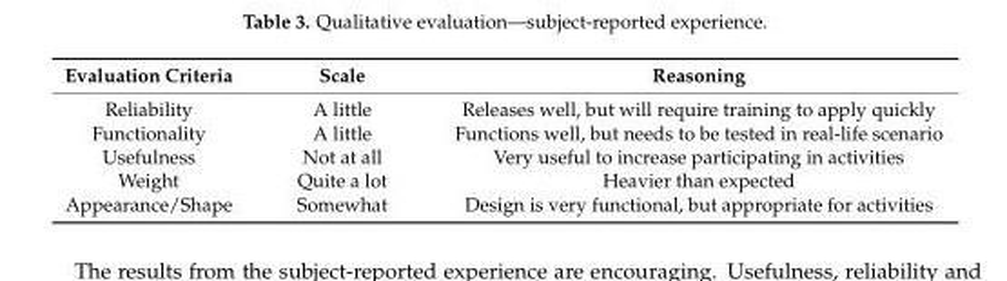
<table><thead><tr><td>Evaluation Criteria</td><td>Scale</td><td>Reasoning</td></tr></thead><tbody><tr><td>Reliability</td><td>A little</td><td>Releases well, but will require training to apply quickly</td></tr><tr><td>Functionality</td><td>A little</td><td>Functions well, but needs to be tested in real-life scenario</td></tr><tr><td>Usefulness</td><td>Not at all</td><td>Very useful to increase participating in activities</td></tr><tr><td>Weight</td><td>Quite a lot</td><td>Heavier than expected</td></tr><tr><td>Appearance/Shape</td><td>Somewhat</td><td>Design is very functional, but appropriate for activities</td></tr></tbody></table>